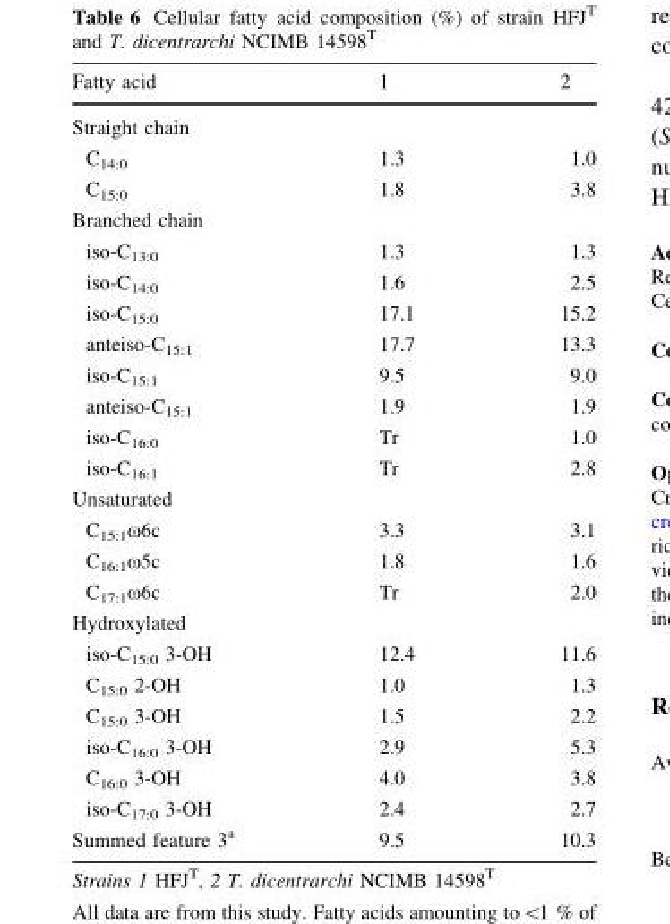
<table><thead><tr><td>Fatty acid</td><td>1</td><td>2</td></tr></thead><tbody><tr><td colspan="3">Straight chain</td></tr><tr><td>C<sub>14:0</sub></td><td>1.3</td><td>1.0</td></tr><tr><td>C<sub>15:0</sub></td><td>1.8</td><td>3.8</td></tr><tr><td colspan="3">Branched chain</td></tr><tr><td>iso-C<sub>13:0</sub></td><td>1.3</td><td>1.3</td></tr><tr><td>iso-C<sub>14:0</sub></td><td>1.6</td><td>2.5</td></tr><tr><td>iso-C<sub>15:0</sub></td><td>17.1</td><td>15.2</td></tr><tr><td>anteiso-C<sub>15:1</sub></td><td>17.7</td><td>13.3</td></tr><tr><td>iso-C<sub>15:1</sub></td><td>9.5</td><td>9.0</td></tr><tr><td>anteiso-C<sub>15:1</sub></td><td>1.9</td><td>1.9</td></tr><tr><td>iso-C<sub>16:0</sub></td><td>Tr</td><td>1.0</td></tr><tr><td>iso-C<sub>16:1</sub></td><td>Tr</td><td>2.8</td></tr><tr><td colspan="3">Unsaturated</td></tr><tr><td>C<sub>15:1</sub>ω6c</td><td>3.3</td><td>3.1</td></tr><tr><td>C<sub>16:1</sub>ω5c</td><td>1.8</td><td>1.6</td></tr><tr><td>C<sub>17:1</sub>ω6c</td><td>Tr</td><td>2.0</td></tr><tr><td colspan="3">Hydroxylated</td></tr><tr><td>iso-C<sub>15:0</sub> 3-OH</td><td>12.4</td><td>11.6</td></tr><tr><td>C<sub>15:0</sub> 2-OH</td><td>1.0</td><td>1.3</td></tr><tr><td>C<sub>15:0</sub> 3-OH</td><td>1.5</td><td>2.2</td></tr><tr><td>iso-C<sub>16:0</sub> 3-OH</td><td>2.9</td><td>5.3</td></tr><tr><td>C<sub>16:0</sub> 3-OH</td><td>4.0</td><td>3.8</td></tr><tr><td>iso-C<sub>17:0</sub> 3-OH</td><td>2.4</td><td>2.7</td></tr><tr><td>Summed feature 3<sup>a</sup></td><td>9.5</td><td>10.3</td></tr></tbody></table>